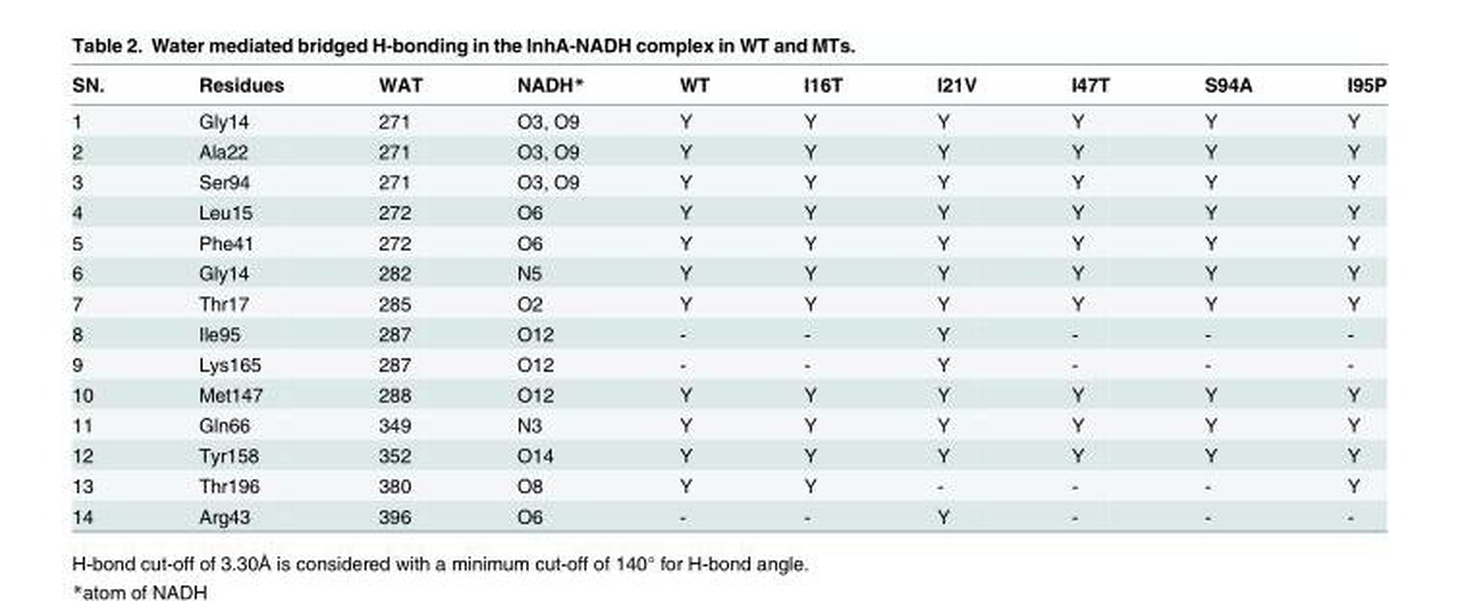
<table><thead><tr><td>SN.</td><td>Residues</td><td>WAT</td><td>NADH*</td><td>WT</td><td>I16T</td><td>I21V</td><td>I47T</td><td>S94A</td><td>I95P</td></tr></thead><tbody><tr><td>1</td><td>Gly14</td><td>271</td><td>O3, O9</td><td>Y</td><td>Y</td><td>Y</td><td>Y</td><td>Y</td><td>Y</td></tr><tr><td>2</td><td>Ala22</td><td>271</td><td>O3, O9</td><td>Y</td><td>Y</td><td>Y</td><td>Y</td><td>Y</td><td>Y</td></tr><tr><td>3</td><td>Ser94</td><td>271</td><td>O3, O9</td><td>Y</td><td>Y</td><td>Y</td><td>Y</td><td>Y</td><td>Y</td></tr><tr><td>4</td><td>Leu15</td><td>272</td><td>O6</td><td>Y</td><td>Y</td><td>Y</td><td>Y</td><td>Y</td><td>Y</td></tr><tr><td>5</td><td>Phe41</td><td>272</td><td>O6</td><td>Y</td><td>Y</td><td>Y</td><td>Y</td><td>Y</td><td>Y</td></tr><tr><td>6</td><td>Gly14</td><td>282</td><td>N5</td><td>Y</td><td>Y</td><td>Y</td><td>Y</td><td>Y</td><td>Y</td></tr><tr><td>7</td><td>Thr17</td><td>285</td><td>O2</td><td>Y</td><td>Y</td><td>Y</td><td>Y</td><td>Y</td><td>Y</td></tr><tr><td>8</td><td>Ile95</td><td>287</td><td>O12</td><td>-</td><td>-</td><td>Y</td><td>-</td><td>-</td><td>-</td></tr><tr><td>9</td><td>Lys165</td><td>287</td><td>O12</td><td>-</td><td>-</td><td>Y</td><td>-</td><td>-</td><td>-</td></tr><tr><td>10</td><td>Met147</td><td>288</td><td>O12</td><td>Y</td><td>Y</td><td>Y</td><td>Y</td><td>Y</td><td>Y</td></tr><tr><td>11</td><td>Gln66</td><td>349</td><td>N3</td><td>Y</td><td>Y</td><td>Y</td><td>Y</td><td>Y</td><td>Y</td></tr><tr><td>12</td><td>Tyr158</td><td>352</td><td>O14</td><td>Y</td><td>Y</td><td>Y</td><td>Y</td><td>Y</td><td>Y</td></tr><tr><td>13</td><td>Thr196</td><td>380</td><td>O8</td><td>Y</td><td>Y</td><td>-</td><td>-</td><td>-</td><td>Y</td></tr><tr><td>14</td><td>Arg43</td><td>396</td><td>O6</td><td>-</td><td>-</td><td>Y</td><td>-</td><td>-</td><td>-</td></tr></tbody></table>